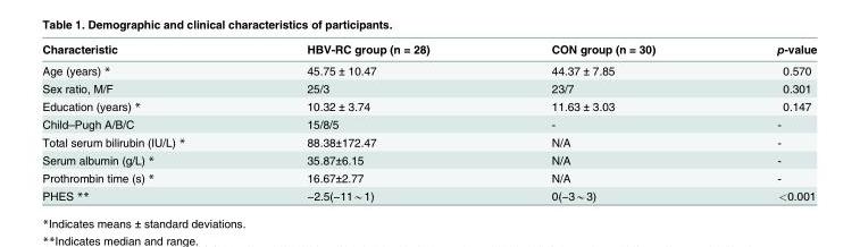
<table><thead><tr><td>Characteristic</td><td>HBV-RC group (n = 28)</td><td>CON group (n = 30)</td><td>p-value</td></tr></thead><tbody><tr><td>Age (years) *</td><td>45.75 ± 10.47</td><td>44.37 ± 7.85</td><td>0.570</td></tr><tr><td>Sex ratio, M/F</td><td>25/3</td><td>23/7</td><td>0.301</td></tr><tr><td>Education (years) *</td><td>10.32 ± 3.74</td><td>11.63 ± 3.03</td><td>0.147</td></tr><tr><td>Child–Pugh A/B/C</td><td>15/8/5</td><td>-</td><td>-</td></tr><tr><td>Total serum bilirubin (IU/L) *</td><td>88.38±172.47</td><td>N/A</td><td>-</td></tr><tr><td>Serum albumin (g/L) *</td><td>35.87±6.15</td><td>N/A</td><td>-</td></tr><tr><td>Prothrombin time (s) *</td><td>16.67±2.77</td><td>N/A</td><td>-</td></tr><tr><td>PHES **</td><td>−2.5(−11*1)</td><td>0(−3*3)</td><td>&lt;0.001</td></tr></tbody></table>